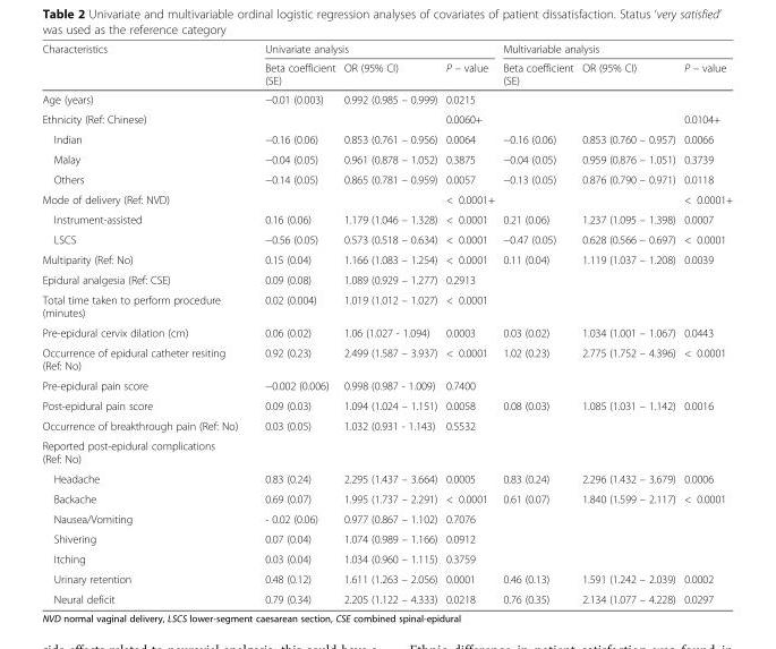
<table><thead><tr><td rowspan="2">Characteristics</td><td colspan="3">Univariate analysis</td><td colspan="3">Multivariable analysis</td></tr><tr><td>Beta coefficient (SE)</td><td>OR (95% CI)</td><td>P – value</td><td>Beta coefficient (SE)</td><td>OR (95% CI)</td><td>P – value</td></tr></thead><tbody><tr><td>Age (years)</td><td>−0.01 (0.003)</td><td>0.992 (0.985 – 0.999)</td><td>0.0215</td><td></td><td></td><td></td></tr><tr><td>Ethnicity (Ref: Chinese)</td><td></td><td></td><td>0.0060+</td><td></td><td></td><td>0.0104+</td></tr><tr><td>Indian</td><td>−0.16 (0.06)</td><td>0.853 (0.761 – 0.956)</td><td>0.0064</td><td>−0.16 (0.06)</td><td>0.853 (0.760 – 0.957)</td><td>0.0066</td></tr><tr><td>Malay</td><td>−0.04 (0.05)</td><td>0.961 (0.878 – 1.052)</td><td>0.3875</td><td>−0.04 (0.05)</td><td>0.959 (0.876 – 1.051)</td><td>0.3739</td></tr><tr><td>Others</td><td>−0.14 (0.05)</td><td>0.865 (0.781 – 0.959)</td><td>0.0057</td><td>−0.13 (0.05)</td><td>0.876 (0.790 – 0.971)</td><td>0.0118</td></tr><tr><td>Mode of delivery (Ref: NVD)</td><td></td><td></td><td>&lt; 0.0001+</td><td></td><td></td><td>&lt; 0.0001+</td></tr><tr><td>Instrument-assisted</td><td>0.16 (0.06)</td><td>1.179 (1.046 – 1.328)</td><td>&lt; 0.0001</td><td>0.21 (0.06)</td><td>1.237 (1.095 – 1.398)</td><td>0.0007</td></tr><tr><td>LSCS</td><td>−0.56 (0.05)</td><td>0.573 (0.518 – 0.634)</td><td>&lt; 0.0001</td><td>−0.47 (0.05)</td><td>0.628 (0.566 – 0.697)</td><td>&lt; 0.0001</td></tr><tr><td>Multiparity (Ref: No)</td><td>0.15 (0.04)</td><td>1.166 (1.083 – 1.254)</td><td>&lt; 0.0001</td><td>0.11 (0.04)</td><td>1.119 (1.037 – 1.208)</td><td>0.0039</td></tr><tr><td>Epidural analgesia (Ref: CSE)</td><td>0.09 (0.08)</td><td>1.089 (0.929 – 1.277)</td><td>0.2913</td><td></td><td></td><td></td></tr><tr><td>Total time taken to perform procedure (minutes)</td><td>0.02 (0.004)</td><td>1.019 (1.012 – 1.027)</td><td>&lt; 0.0001</td><td></td><td></td><td></td></tr><tr><td>Pre-epidural cervix dilation (cm)</td><td>0.06 (0.02)</td><td>1.06 (1.027 - 1.094)</td><td>0.0003</td><td>0.03 (0.02)</td><td>1.034 (1.001 – 1.067)</td><td>0.0443</td></tr><tr><td>Occurrence of epidural catheter resiting (Ref: No)</td><td>0.92 (0.23)</td><td>2.499 (1.587 – 3.937)</td><td>&lt; 0.0001</td><td>1.02 (0.23)</td><td>2.775 (1.752 – 4.396)</td><td>&lt; 0.0001</td></tr><tr><td>Pre-epidural pain score</td><td>−0.002 (0.006)</td><td>0.998 (0.987 - 1.009)</td><td>0.7400</td><td></td><td></td><td></td></tr><tr><td>Post-epidural pain score</td><td>0.09 (0.03)</td><td>1.094 (1.024 – 1.151)</td><td>0.0058</td><td>0.08 (0.03)</td><td>1.085 (1.031 – 1.142)</td><td>0.0016</td></tr><tr><td>Occurrence of breakthrough pain (Ref: No)</td><td>0.03 (0.05)</td><td>1.032 (0.931 - 1.143)</td><td>0.5532</td><td></td><td></td><td></td></tr><tr><td colspan="7">Reported post-epidural complications (Ref: No)</td></tr><tr><td>Headache</td><td>0.83 (0.24)</td><td>2.295 (1.437 – 3.664)</td><td>0.0005</td><td>0.83 (0.24)</td><td>2.296 (1.432 – 3.679)</td><td>0.0006</td></tr><tr><td>Backache</td><td>0.69 (0.07)</td><td>1.995 (1.737 – 2.291)</td><td>&lt; 0.0001</td><td>0.61 (0.07)</td><td>1.840 (1.599 – 2.117)</td><td>&lt; 0.0001</td></tr><tr><td>Nausea/Vomiting</td><td>- 0.02 (0.06)</td><td>0.977 (0.867 – 1.102)</td><td>0.7076</td><td></td><td></td><td></td></tr><tr><td>Shivering</td><td>0.07 (0.04)</td><td>1.074 (0.989 – 1.166)</td><td>0.0912</td><td></td><td></td><td></td></tr><tr><td>Itching</td><td>0.03 (0.04)</td><td>1.034 (0.960 – 1.115)</td><td>0.3759</td><td></td><td></td><td></td></tr><tr><td>Urinary retention</td><td>0.48 (0.12)</td><td>1.611 (1.263 – 2.056)</td><td>0.0001</td><td>0.46 (0.13)</td><td>1.591 (1.242 – 2.039)</td><td>0.0002</td></tr><tr><td>Neural deficit</td><td>0.79 (0.34)</td><td>2.205 (1.122 – 4.333)</td><td>0.0218</td><td>0.76 (0.35)</td><td>2.134 (1.077 – 4.228)</td><td>0.0297</td></tr></tbody></table>